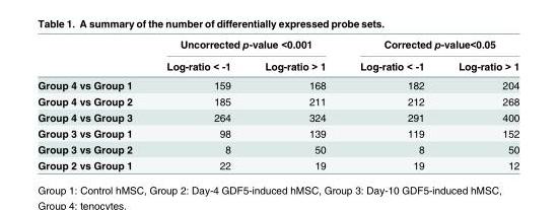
<table><thead><tr><td rowspan="2"></td><td colspan="2">Uncorrected p-value &lt;0.001</td><td colspan="2">Corrected p-value&lt;0.05</td></tr><tr><td>Log-ratio &lt; -1</td><td>Log-ratio &gt; 1</td><td>Log-ratio &lt; -1</td><td>Log-ratio &gt; 1</td></tr></thead><tbody><tr><td>Group 4 vs Group 1</td><td>159</td><td>168</td><td>182</td><td>204</td></tr><tr><td>Group 4 vs Group 2</td><td>185</td><td>211</td><td>212</td><td>268</td></tr><tr><td>Group 4 vs Group 3</td><td>264</td><td>324</td><td>291</td><td>400</td></tr><tr><td>Group 3 vs Group 1</td><td>98</td><td>139</td><td>119</td><td>152</td></tr><tr><td>Group 3 vs Group 2</td><td>8</td><td>50</td><td>8</td><td>50</td></tr><tr><td>Group 2 vs Group 1</td><td>22</td><td>19</td><td>19</td><td>12</td></tr></tbody></table>